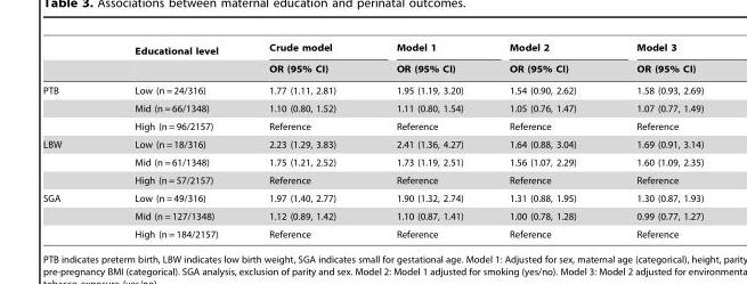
<table><thead><tr><td rowspan="2"></td><td rowspan="2">Educational level</td><td rowspan="2">Crude model OR (95% CI)</td><td rowspan="2">Model 1 OR (95% CI)</td><td rowspan="2">Model 2 OR (95% CI)</td><td rowspan="2">Model 3 OR (95% CI)</td></tr><tr></tr></thead><tbody><tr><td rowspan="3">PTB</td><td>Low (n = 24/316)</td><td>1.77 (1.11, 2.81)</td><td>1.95 (1.19, 3.20)</td><td>1.54 (0.90, 2.62)</td><td>1.58 (0.93, 2.69)</td></tr><tr><td>Mid (n = 66/1348)</td><td>1.10 (0.80, 1.52)</td><td>1.11 (0.80, 1.54)</td><td>1.05 (0.76, 1.47)</td><td>1.07 (0.77, 1.49)</td></tr><tr><td>High (n = 96/2157)</td><td>Reference</td><td>Reference</td><td>Reference</td><td>Reference</td></tr><tr><td rowspan="3">LBW</td><td>Low (n = 18/316)</td><td>2.23 (1.29, 3.83)</td><td>2.41 (1.36, 4.27)</td><td>1.64 (0.88, 3.04)</td><td>1.69 (0.91, 3.14)</td></tr><tr><td>Mid (n = 61/1348)</td><td>1.75 (1.21, 2.52)</td><td>1.73 (1.19, 2.51)</td><td>1.56 (1.07, 2.29)</td><td>1.60 (1.09, 2.35)</td></tr><tr><td>High (n = 57/2157)</td><td>Reference</td><td>Reference</td><td>Reference</td><td>Reference</td></tr><tr><td rowspan="3">SGA</td><td>Low (n = 49/316)</td><td>1.97 (1.40, 2.77)</td><td>1.90 (1.32, 2.74)</td><td>1.31 (0.88, 1.95)</td><td>1.30 (0.87, 1.93)</td></tr><tr><td>Mid (n = 127/1348)</td><td>1.12 (0.89, 1.42)</td><td>1.10 (0.87, 1.41)</td><td>1.00 (0.78, 1.28)</td><td>0.99 (0.77, 1.27)</td></tr><tr><td>High (n = 184/2157)</td><td>Reference</td><td>Reference</td><td>Reference</td><td>Reference</td></tr></tbody></table>